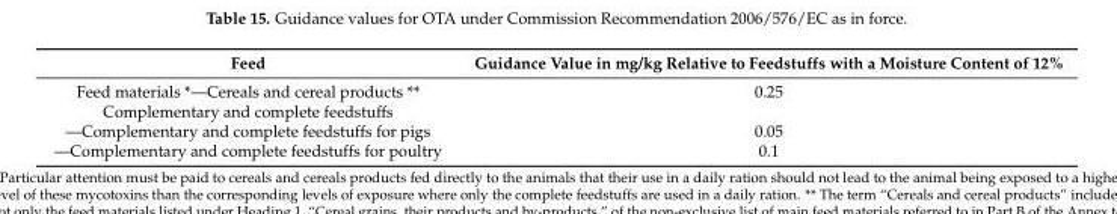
<table><thead><tr><td>Feed</td><td>Guidance Value in mg/kg Relative to Feedstuffs with a Moisture Content of 12%</td></tr></thead><tbody><tr><td>Feed materials *—Cereals and cereal products **</td><td>0.25</td></tr><tr><td colspan="2">Complementary and complete feedstuffs</td></tr><tr><td>—Complementary and complete feedstuffs for pigs</td><td>0.05</td></tr><tr><td>—Complementary and complete feedstuffs for poultry</td><td>0.1</td></tr></tbody></table>